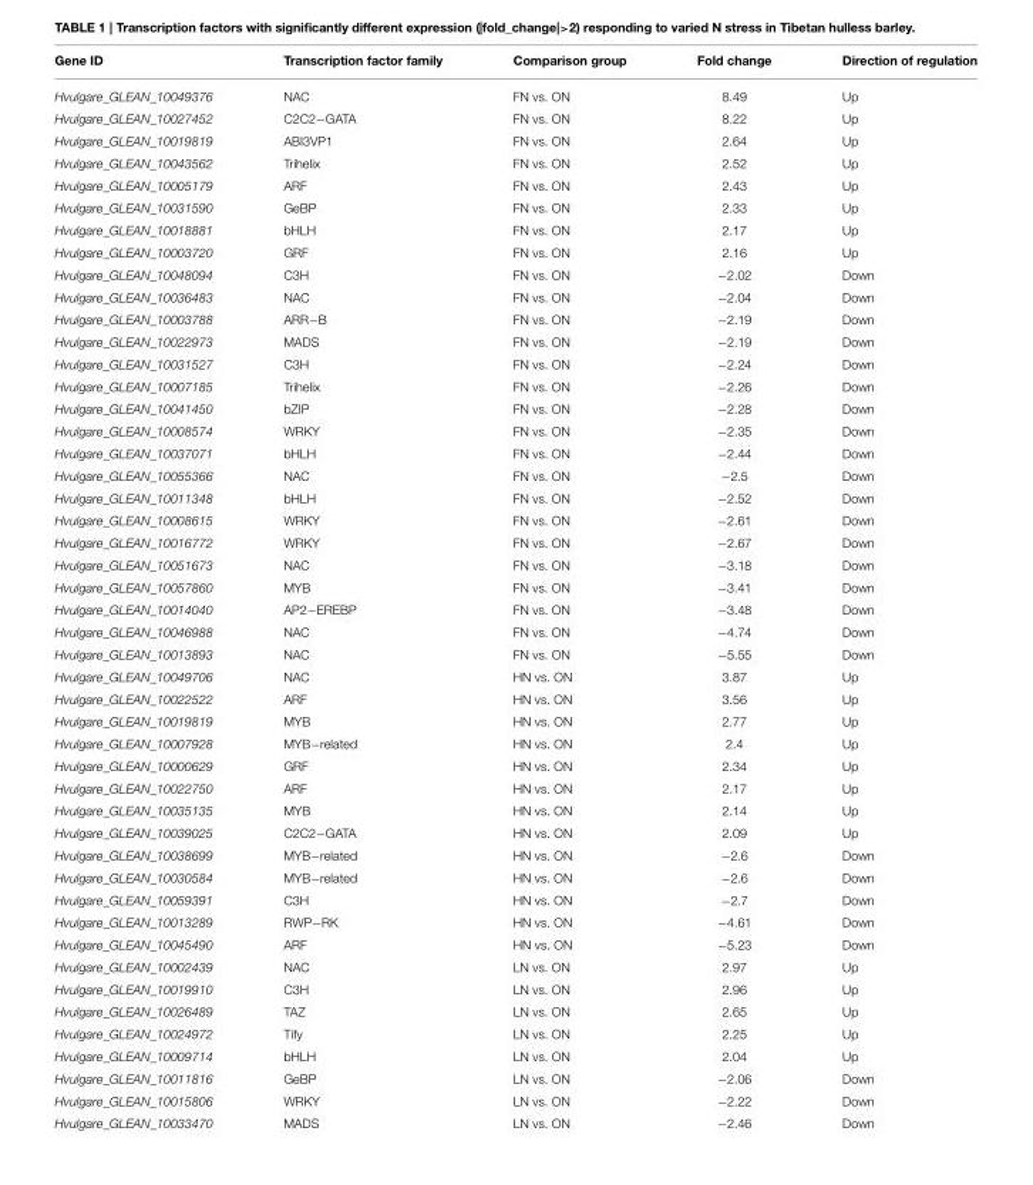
<table><thead><tr><td>Gene ID</td><td>Transcription factor family</td><td>Comparison group</td><td>Fold change</td><td>Direction of regulation</td></tr></thead><tbody><tr><td>Hvulgare_GLEAN_10049376</td><td>NAC</td><td>FN vs. ON</td><td>8.49</td><td>Up</td></tr><tr><td>Hvulgare_GLEAN_10027452</td><td>C2C2−GATA</td><td>FN vs. ON</td><td>8.22</td><td>Up</td></tr><tr><td>Hvulgare_GLEAN_10019819</td><td>ABI3VP1</td><td>FN vs. ON</td><td>2.64</td><td>Up</td></tr><tr><td>Hvulgare_GLEAN_10043562</td><td>Trihelix</td><td>FN vs. ON</td><td>2.52</td><td>Up</td></tr><tr><td>Hvulgare_GLEAN_10005179</td><td>ARF</td><td>FN vs. ON</td><td>2.43</td><td>Up</td></tr><tr><td>Hvulgare_GLEAN_10031590</td><td>GeBP</td><td>FN vs. ON</td><td>2.33</td><td>Up</td></tr><tr><td>Hvulgare_GLEAN_10018881</td><td>bHLH</td><td>FN vs. ON</td><td>2.17</td><td>Up</td></tr><tr><td>Hvulgare_GLEAN_10003720</td><td>GRF</td><td>FN vs. ON</td><td>2.16</td><td>Up</td></tr><tr><td>Hvulgare_GLEAN_10048094</td><td>C3H</td><td>FN vs. ON</td><td>−2.02</td><td>Down</td></tr><tr><td>Hvulgare_GLEAN_10036483</td><td>NAC</td><td>FN vs. ON</td><td>−2.04</td><td>Down</td></tr><tr><td>Hvulgare_GLEAN_10003788</td><td>ARR−B</td><td>FN vs. ON</td><td>−2.19</td><td>Down</td></tr><tr><td>Hvulgare_GLEAN_10022973</td><td>MADS</td><td>FN vs. ON</td><td>−2.19</td><td>Down</td></tr><tr><td>Hvulgare_GLEAN_10031527</td><td>C3H</td><td>FN vs. ON</td><td>−2.24</td><td>Down</td></tr><tr><td>Hvulgare_GLEAN_10007185</td><td>Trihelix</td><td>FN vs. ON</td><td>−2.26</td><td>Down</td></tr><tr><td>Hvulgare_GLEAN_10041450</td><td>bZIP</td><td>FN vs. ON</td><td>−2.28</td><td>Down</td></tr><tr><td>Hvulgare_GLEAN_10008574</td><td>WRKY</td><td>FN vs. ON</td><td>−2.35</td><td>Down</td></tr><tr><td>Hvulgare_GLEAN_10037071</td><td>bHLH</td><td>FN vs. ON</td><td>−2.44</td><td>Down</td></tr><tr><td>Hvulgare_GLEAN_10055366</td><td>NAC</td><td>FN vs. ON</td><td>−2.5</td><td>Down</td></tr><tr><td>Hvulgare_GLEAN_10011348</td><td>bHLH</td><td>FN vs. ON</td><td>−2.52</td><td>Down</td></tr><tr><td>Hvulgare_GLEAN_10008615</td><td>WRKY</td><td>FN vs. ON</td><td>−2.61</td><td>Down</td></tr><tr><td>Hvulgare_GLEAN_10016772</td><td>WRKY</td><td>FN vs. ON</td><td>−2.67</td><td>Down</td></tr><tr><td>Hvulgare_GLEAN_10051673</td><td>NAC</td><td>FN vs. ON</td><td>−3.18</td><td>Down</td></tr><tr><td>Hvulgare_GLEAN_10057860</td><td>MYB</td><td>FN vs. ON</td><td>−3.41</td><td>Down</td></tr><tr><td>Hvulgare_GLEAN_10014040</td><td>AP2−EREBP</td><td>FN vs. ON</td><td>−3.48</td><td>Down</td></tr><tr><td>Hvulgare_GLEAN_10046988</td><td>NAC</td><td>FN vs. ON</td><td>−4.74</td><td>Down</td></tr><tr><td>Hvulgare_GLEAN_10013893</td><td>NAC</td><td>FN vs. ON</td><td>−5.55</td><td>Down</td></tr><tr><td>Hvulgare_GLEAN_10049706</td><td>NAC</td><td>HN vs. ON</td><td>3.87</td><td>Up</td></tr><tr><td>Hvulgare_GLEAN_10022522</td><td>ARF</td><td>HN vs. ON</td><td>3.56</td><td>Up</td></tr><tr><td>Hvulgare_GLEAN_10019819</td><td>MYB</td><td>HN vs. ON</td><td>2.77</td><td>Up</td></tr><tr><td>Hvulgare_GLEAN_10007928</td><td>MYB−related</td><td>HN vs. ON</td><td>2.4</td><td>Up</td></tr><tr><td>Hvulgare_GLEAN_10000629</td><td>GRF</td><td>HN vs. ON</td><td>2.34</td><td>Up</td></tr><tr><td>Hvulgare_GLEAN_10022750</td><td>ARF</td><td>HN vs. ON</td><td>2.17</td><td>Up</td></tr><tr><td>Hvulgare_GLEAN_10035135</td><td>MYB</td><td>HN vs. ON</td><td>2.14</td><td>Up</td></tr><tr><td>Hvulgare_GLEAN_10039025</td><td>C2C2−GATA</td><td>HN vs. ON</td><td>2.09</td><td>Up</td></tr><tr><td>Hvulgare_GLEAN_10038699</td><td>MYB−related</td><td>HN vs. ON</td><td>−2.6</td><td>Down</td></tr><tr><td>Hvulgare_GLEAN_10030584</td><td>MYB−related</td><td>HN vs. ON</td><td>−2.6</td><td>Down</td></tr><tr><td>Hvulgare_GLEAN_10059391</td><td>C3H</td><td>HN vs. ON</td><td>−2.7</td><td>Down</td></tr><tr><td>Hvulgare_GLEAN_10013289</td><td>RWP−RK</td><td>HN vs. ON</td><td>−4.61</td><td>Down</td></tr><tr><td>Hvulgare_GLEAN_10045490</td><td>ARF</td><td>HN vs. ON</td><td>−5.23</td><td>Down</td></tr><tr><td>Hvulgare_GLEAN_10002439</td><td>NAC</td><td>LN vs. ON</td><td>2.97</td><td>Up</td></tr><tr><td>Hvulgare_GLEAN_10019910</td><td>C3H</td><td>LN vs. ON</td><td>2.96</td><td>Up</td></tr><tr><td>Hvulgare_GLEAN_10026489</td><td>TAZ</td><td>LN vs. ON</td><td>2.65</td><td>Up</td></tr><tr><td>Hvulgare_GLEAN_10024972</td><td>Tify</td><td>LN vs. ON</td><td>2.25</td><td>Up</td></tr><tr><td>Hvulgare_GLEAN_10009714</td><td>bHLH</td><td>LN vs. ON</td><td>2.04</td><td>Up</td></tr><tr><td>Hvulgare_GLEAN_10011816</td><td>GeBP</td><td>LN vs. ON</td><td>−2.06</td><td>Down</td></tr><tr><td>Hvulgare_GLEAN_10015806</td><td>WRKY</td><td>LN vs. ON</td><td>−2.22</td><td>Down</td></tr><tr><td>Hvulgare_GLEAN_10033470</td><td>MADS</td><td>LN vs. ON</td><td>−2.46</td><td>Down</td></tr></tbody></table>